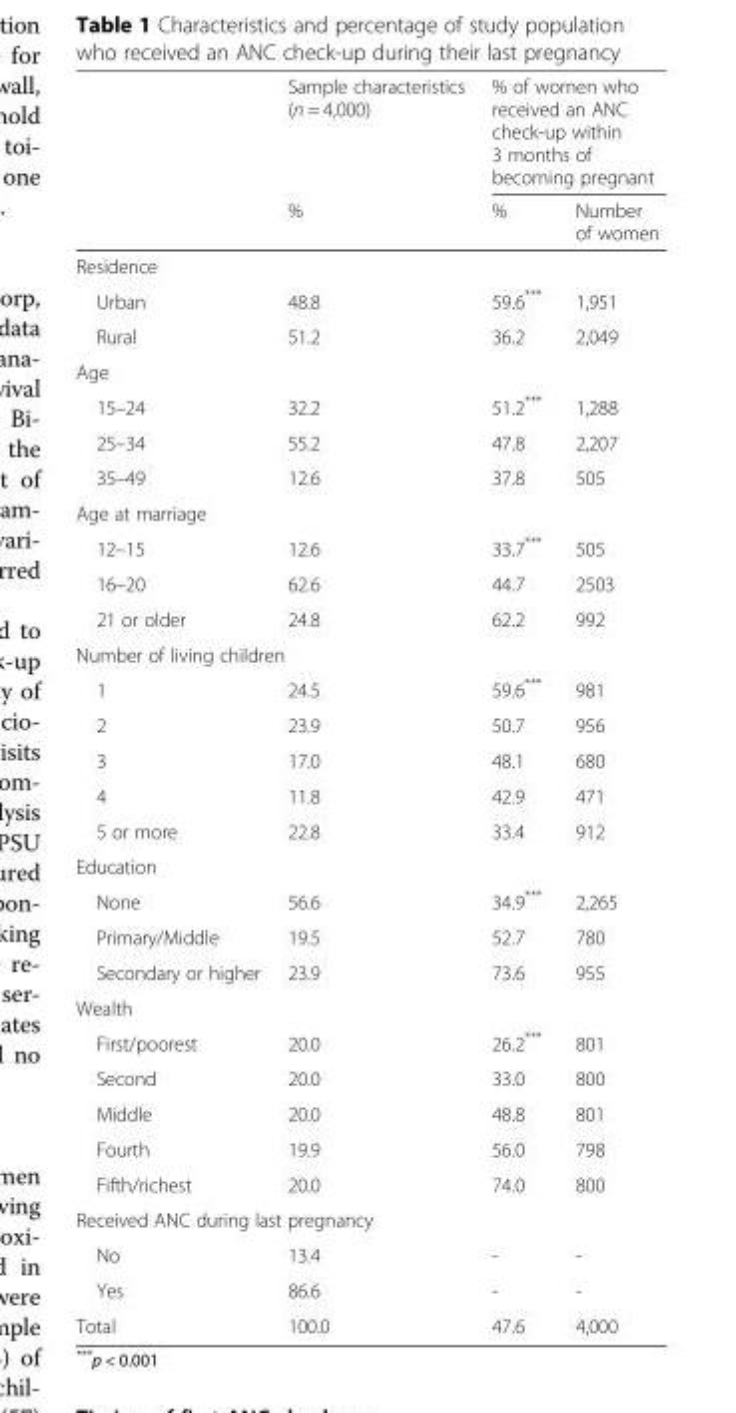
<table><thead><tr><td rowspan="2"></td><td rowspan="2">Sample characteristics (n = 4,000) %</td><td colspan="2">% of women who received an ANC check-up within 3 months of becoming pregnant</td></tr><tr><td>%</td><td>Number of women</td></tr></thead><tbody><tr><td colspan="4">Residence</td></tr><tr><td>Urban</td><td>48.8</td><td>59.6***</td><td>1,951</td></tr><tr><td>Rural</td><td>51.2</td><td>36.2</td><td>2,049</td></tr><tr><td colspan="4">Age</td></tr><tr><td>15–24</td><td>32.2</td><td>51.2***</td><td>1,288</td></tr><tr><td>25–34</td><td>55.2</td><td>47.8</td><td>2,207</td></tr><tr><td>35–49</td><td>12.6</td><td>37.8</td><td>505</td></tr><tr><td colspan="4">Age at marriage</td></tr><tr><td>12–15</td><td>12.6</td><td>33.7***</td><td>505</td></tr><tr><td>16–20</td><td>62.6</td><td>44.7</td><td>2503</td></tr><tr><td>21 or older</td><td>24.8</td><td>62.2</td><td>992</td></tr><tr><td colspan="4">Number of living children</td></tr><tr><td>1</td><td>24.5</td><td>59.6***</td><td>981</td></tr><tr><td>2</td><td>23.9</td><td>50.7</td><td>956</td></tr><tr><td>3</td><td>17.0</td><td>48.1</td><td>680</td></tr><tr><td>4</td><td>11.8</td><td>42.9</td><td>471</td></tr><tr><td>5 or more</td><td>22.8</td><td>33.4</td><td>912</td></tr><tr><td colspan="4">Education</td></tr><tr><td>None</td><td>56.6</td><td>34.9***</td><td>2,265</td></tr><tr><td>Primary/Middle</td><td>19.5</td><td>52.7</td><td>780</td></tr><tr><td>Secondary or higher</td><td>23.9</td><td>73.6</td><td>955</td></tr><tr><td colspan="4">Wealth</td></tr><tr><td>First/poorest</td><td>20.0</td><td>26.2***</td><td>801</td></tr><tr><td>Second</td><td>20.0</td><td>33.0</td><td>800</td></tr><tr><td>Middle</td><td>20.0</td><td>48.8</td><td>801</td></tr><tr><td>Fourth</td><td>19.9</td><td>56.0</td><td>798</td></tr><tr><td>Fifth/richest</td><td>20.0</td><td>74.0</td><td>800</td></tr><tr><td colspan="4">Received ANC during last pregnancy</td></tr><tr><td>No</td><td>13.4</td><td>-</td><td>-</td></tr><tr><td>Yes</td><td>86.6</td><td>-</td><td>-</td></tr><tr><td>Total</td><td>100.0</td><td>47.6</td><td>4,000</td></tr></tbody></table>